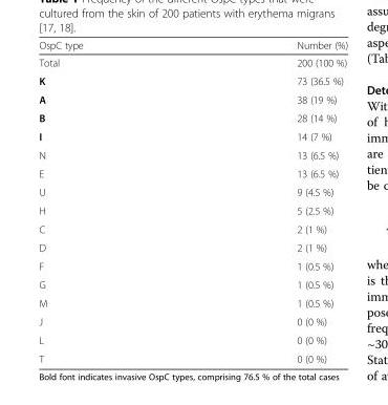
<table><thead><tr><td>OspC type</td><td>Number (%)</td></tr></thead><tbody><tr><td>Total</td><td>200 (100 %)</td></tr><tr><td>K</td><td>73 (36.5 %)</td></tr><tr><td>A</td><td>38 (19 %)</td></tr><tr><td>B</td><td>28 (14 %)</td></tr><tr><td>I</td><td>14 (7 %)</td></tr><tr><td>N</td><td>13 (6.5 %)</td></tr><tr><td>E</td><td>13 (6.5 %)</td></tr><tr><td>U</td><td>9 (4.5 %)</td></tr><tr><td>H</td><td>5 (2.5 %)</td></tr><tr><td>C</td><td>2 (1 %)</td></tr><tr><td>D</td><td>2 (1 %)</td></tr><tr><td>F</td><td>1 (0.5 %)</td></tr><tr><td>G</td><td>1 (0.5 %)</td></tr><tr><td>M</td><td>1 (0.5 %)</td></tr><tr><td>J</td><td>0 (0 %)</td></tr><tr><td>L</td><td>0 (0 %)</td></tr><tr><td>T</td><td>0 (0 %)</td></tr></tbody></table>